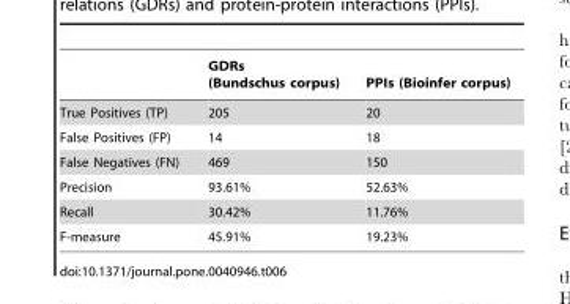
<table><thead><tr><td></td><td>GDRs (Bundschus corpus)</td><td>PPIs (Bioinfer corpus)</td></tr></thead><tbody><tr><td>True Positives (TP)</td><td>205</td><td>20</td></tr><tr><td>False Positives (FP)</td><td>14</td><td>18</td></tr><tr><td>False Negatives (FN)</td><td>469</td><td>150</td></tr><tr><td>Precision</td><td>93.61%</td><td>52.63%</td></tr><tr><td>Recall</td><td>30.42%</td><td>11.76%</td></tr><tr><td>F-measure</td><td>45.91%</td><td>19.23%</td></tr></tbody></table>